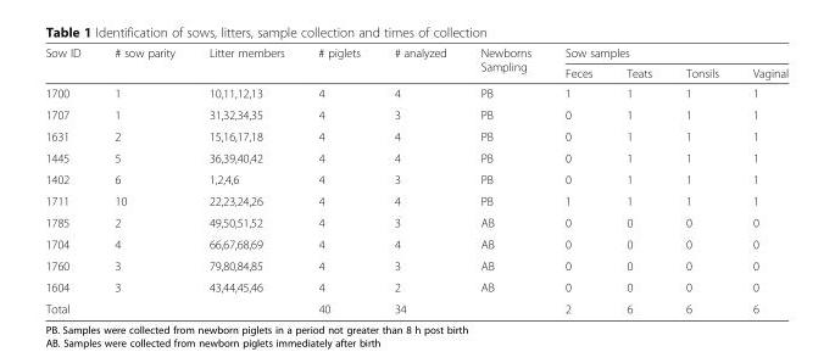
<table><thead><tr><td rowspan="2">Sow ID</td><td rowspan="2"># sow parity</td><td rowspan="2">Litter members</td><td rowspan="2"># piglets</td><td rowspan="2"># analyzed</td><td rowspan="2">Newborns Sampling</td><td colspan="4">Sow samples</td></tr><tr><td>Feces</td><td>Teats</td><td>Tonsils</td><td>Vaginal</td></tr></thead><tbody><tr><td>1700</td><td>1</td><td>10,11,12,13</td><td>4</td><td>4</td><td>PB</td><td>1</td><td>1</td><td>1</td><td>1</td></tr><tr><td>1707</td><td>1</td><td>31,32,34,35</td><td>4</td><td>3</td><td>PB</td><td>0</td><td>1</td><td>1</td><td>1</td></tr><tr><td>1631</td><td>2</td><td>15,16,17,18</td><td>4</td><td>4</td><td>PB</td><td>0</td><td>1</td><td>1</td><td>1</td></tr><tr><td>1445</td><td>5</td><td>36,39,40,42</td><td>4</td><td>4</td><td>PB</td><td>0</td><td>1</td><td>1</td><td>1</td></tr><tr><td>1402</td><td>6</td><td>1,2,4,6</td><td>4</td><td>3</td><td>PB</td><td>0</td><td>1</td><td>1</td><td>1</td></tr><tr><td>1711</td><td>10</td><td>22,23,24,26</td><td>4</td><td>4</td><td>PB</td><td>1</td><td>1</td><td>1</td><td>1</td></tr><tr><td>1785</td><td>2</td><td>49,50,51,52</td><td>4</td><td>3</td><td>AB</td><td>0</td><td>0</td><td>0</td><td>0</td></tr><tr><td>1704</td><td>4</td><td>66,67,68,69</td><td>4</td><td>4</td><td>AB</td><td>0</td><td>0</td><td>0</td><td>0</td></tr><tr><td>1760</td><td>3</td><td>79,80,84,85</td><td>4</td><td>3</td><td>AB</td><td>0</td><td>0</td><td>0</td><td>0</td></tr><tr><td>1604</td><td>3</td><td>43,44,45,46</td><td>4</td><td>2</td><td>AB</td><td>0</td><td>0</td><td>0</td><td>0</td></tr><tr><td>Total</td><td></td><td></td><td>40</td><td>34</td><td></td><td>2</td><td>6</td><td>6</td><td>6</td></tr></tbody></table>